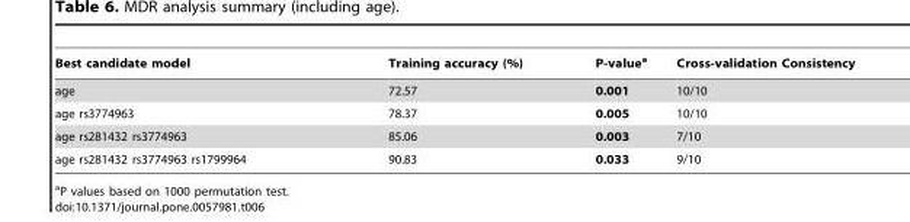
<table><thead><tr><td>Best candidate model</td><td>Training accuracy (%)</td><td>P-value<sup>a</sup></td><td>Cross-validation Consistency</td></tr></thead><tbody><tr><td>age</td><td>72.57</td><td>0.001</td><td>10/10</td></tr><tr><td>age rs3774963</td><td>78.37</td><td>0.005</td><td>10/10</td></tr><tr><td>age rs281432 rs3774963</td><td>85.06</td><td>0.003</td><td>7/10</td></tr><tr><td>age rs281432 rs3774963 rs1799964</td><td>90.83</td><td>0.033</td><td>9/10</td></tr></tbody></table>